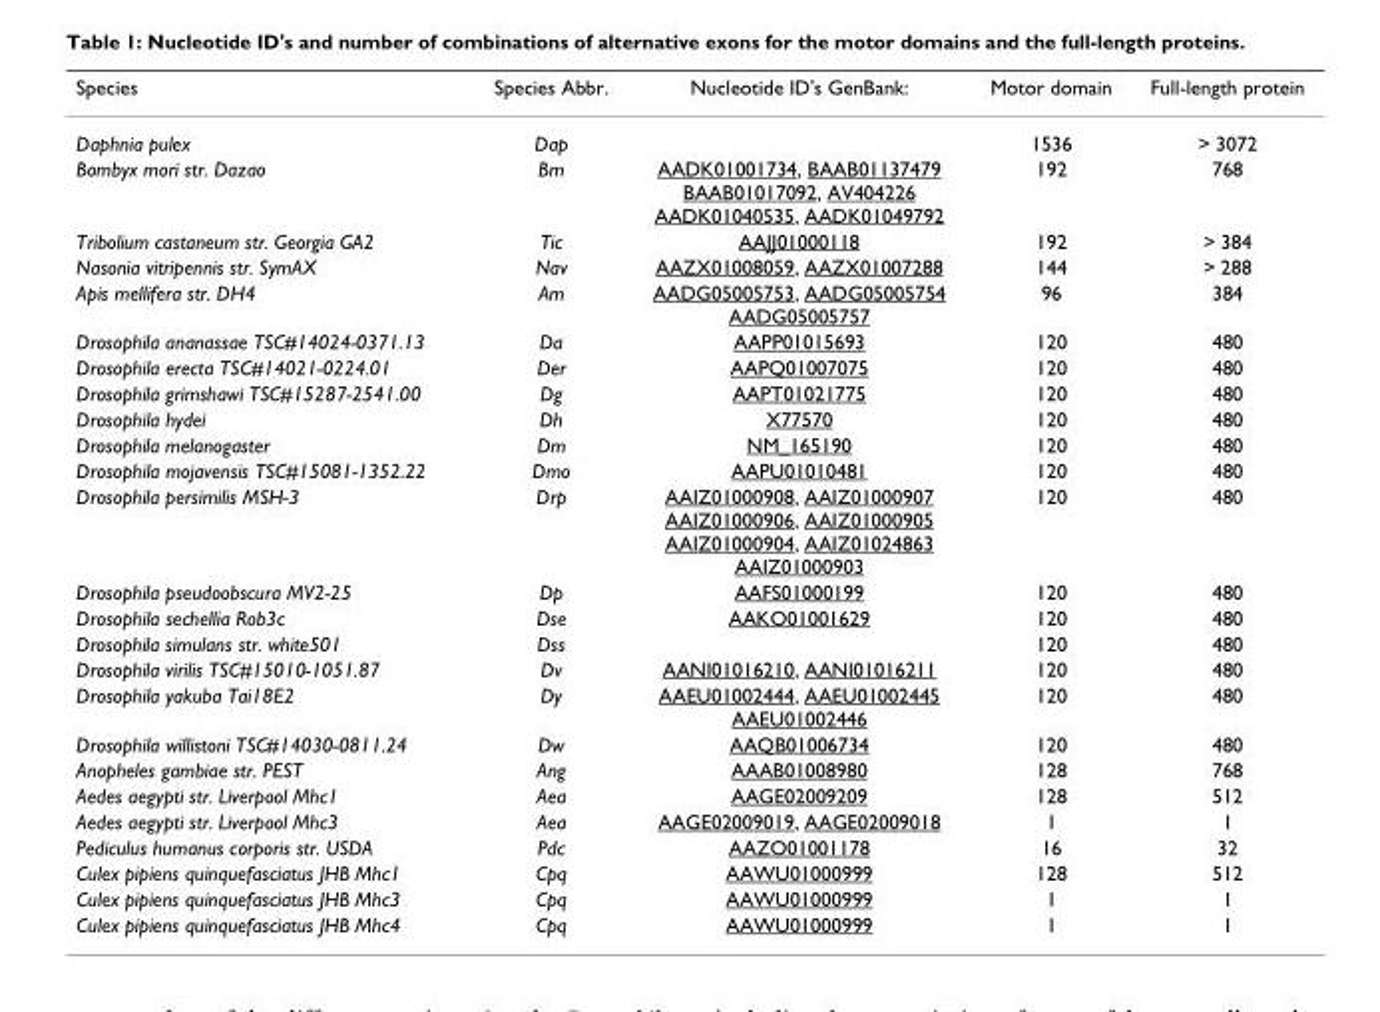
<table><thead><tr><td>Species</td><td>Species Abbr.</td><td>Nucleotide ID&#x27;s GenBank:</td><td>Motor domain</td><td>Full-length protein</td></tr></thead><tbody><tr><td>Daphnia pulex</td><td>Dap</td><td></td><td>1536</td><td>&gt; 3072</td></tr><tr><td>Bombyx mori str. Dazao</td><td>Bm</td><td>AADK01001734, BAAB01137479 BAAB01017092, AV404226 AADK01040535, AADK01049792</td><td>192</td><td>768</td></tr><tr><td>Tribolium castaneum str. Georgia GA2</td><td>Tic</td><td>AAJJ01000118</td><td>192</td><td>&gt; 384</td></tr><tr><td>Nasonia vitripennis str. SymAX</td><td>Nav</td><td>AAZX01008059, AAZX01007288</td><td>144</td><td>&gt; 288</td></tr><tr><td>Apis mellifera str. DH4</td><td>Am</td><td>AADG05005753, AADG05005754 AADG05005757</td><td>96</td><td>384</td></tr><tr><td>Drosophila ananassae TSC#14024-0371.13</td><td>Da</td><td>AAPP01015693</td><td>120</td><td>480</td></tr><tr><td>Drosophila erecta TSC#14021-0224.01</td><td>Der</td><td>AAPQ01007075</td><td>120</td><td>480</td></tr><tr><td>Drosophila grimshawi TSC#15287-2541.00</td><td>Dg</td><td>AAPT01021775</td><td>120</td><td>480</td></tr><tr><td>Drosophila hydei</td><td>Dh</td><td>X77570</td><td>120</td><td>480</td></tr><tr><td>Drosophila melanogaster</td><td>Dm</td><td>NM_165190</td><td>120</td><td>480</td></tr><tr><td>Drosophila mojavensis TSC#15081-1352.22</td><td>Dmo</td><td>AAPU01010481</td><td>120</td><td>480</td></tr><tr><td>Drosophila persimilis MSH-3</td><td>Drp</td><td>AAIZ01000908, AAIZ01000907 AAIZ01000906, AAIZ01000905 AAIZ01000904, AAIZ01024863 AAIZ01000903</td><td>120</td><td>480</td></tr><tr><td>Drosophila pseudoobscura MV2-25</td><td>Dp</td><td>AAFS01000199</td><td>120</td><td>480</td></tr><tr><td>Drosophila sechellia Rob3c</td><td>Dse</td><td>AAKO01001629</td><td>120</td><td>480</td></tr><tr><td>Drosophila simulans str. white501</td><td>Dss</td><td></td><td>120</td><td>480</td></tr><tr><td>Drosophila virilis TSC#15010-1051.87</td><td>Dv</td><td>AANI01016210, AANI01016211</td><td>120</td><td>480</td></tr><tr><td>Drosophila yakuba Tai18E2</td><td>Dy</td><td>AAEU01002444, AAEU01002445 AAEU01002446</td><td>120</td><td>480</td></tr><tr><td>Drosophila willistoni TSC#14030-0811.24</td><td>Dw</td><td>AAQB01006734</td><td>120</td><td>480</td></tr><tr><td>Anopheles gambiae str. PEST</td><td>Ang</td><td>AAAB01008980</td><td>128</td><td>768</td></tr><tr><td>Aedes aegypti str. Liverpool Mhc1</td><td>Aea</td><td>AAGE02009209</td><td>128</td><td>512</td></tr><tr><td>Aedes aegypti str. Liverpool Mhc3</td><td>Aea</td><td>AAGE02009019, AAGE02009018</td><td>1</td><td>1</td></tr><tr><td>Pediculus humanus corporis str. USDA</td><td>Pdc</td><td>AAZO01001178</td><td>16</td><td>32</td></tr><tr><td>Culex pipiens quinquefasciatus JHB Mhc1</td><td>Cpq</td><td>AAWU01000999</td><td>128</td><td>512</td></tr><tr><td>Culex pipiens quinquefasciatus JHB Mhc3</td><td>Cpq</td><td>AAWU01000999</td><td>1</td><td>1</td></tr><tr><td>Culex pipiens quinquefasciatus JHB Mhc4</td><td>Cpq</td><td>AAWU01000999</td><td>1</td><td>1</td></tr></tbody></table>